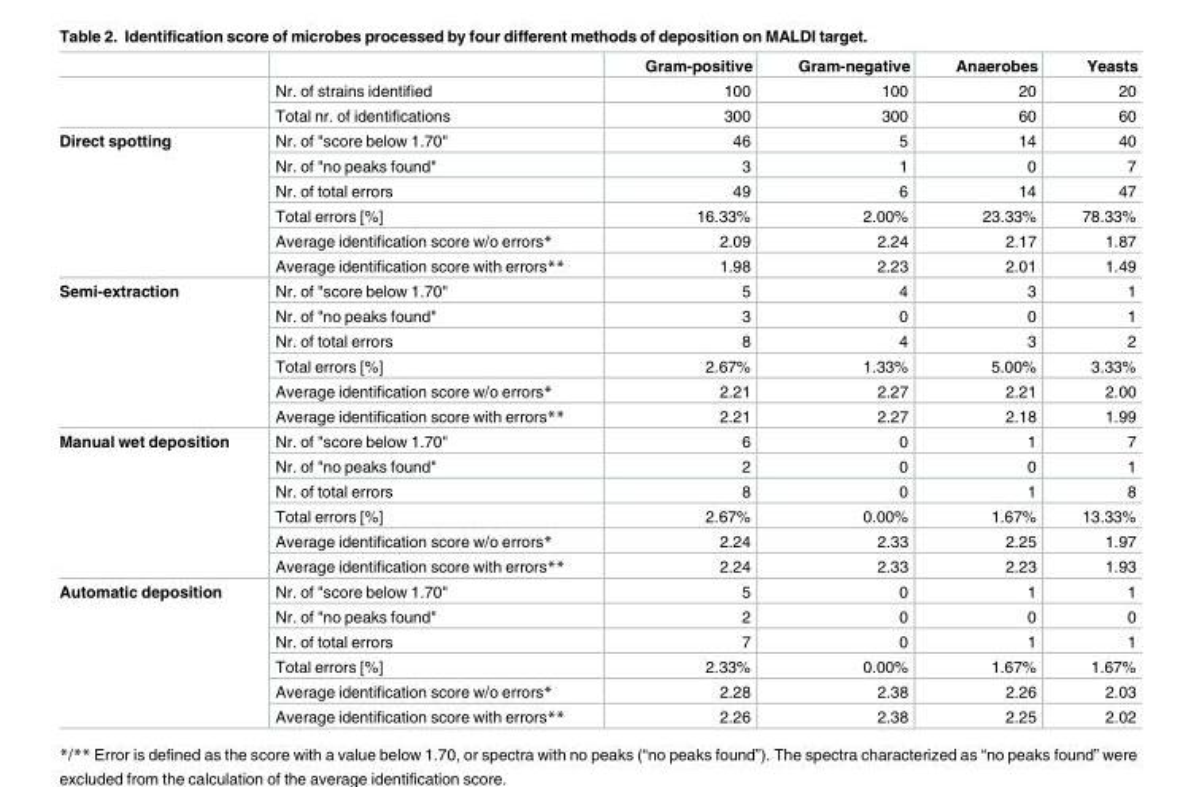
<table><thead><tr><td></td><td></td><td>Gram-positive</td><td>Gram-negative</td><td>Anaerobes</td><td>Yeasts</td></tr></thead><tbody><tr><td rowspan="2"></td><td>Nr. of strains identified</td><td>100</td><td>100</td><td>20</td><td>20</td></tr><tr><td>Total nr. of identifications</td><td>300</td><td>300</td><td>60</td><td>60</td></tr><tr><td rowspan="6">Direct spotting</td><td>Nr. of &quot;score below 1.70&quot;</td><td>46</td><td>5</td><td>14</td><td>40</td></tr><tr><td>Nr. of &quot;no peaks found&quot;</td><td>3</td><td>1</td><td>0</td><td>7</td></tr><tr><td>Nr. of total errors</td><td>49</td><td>6</td><td>14</td><td>47</td></tr><tr><td>Total errors [%]</td><td>16.33%</td><td>2.00%</td><td>23.33%</td><td>78.33%</td></tr><tr><td>Average identification score w/o errors*</td><td>2.09</td><td>2.24</td><td>2.17</td><td>1.87</td></tr><tr><td>Average identification score with errors**</td><td>1.98</td><td>2.23</td><td>2.01</td><td>1.49</td></tr><tr><td rowspan="6">Semi-extraction</td><td>Nr. of &quot;score below 1.70&quot;</td><td>5</td><td>4</td><td>3</td><td>1</td></tr><tr><td>Nr. of &quot;no peaks found&quot;</td><td>3</td><td>0</td><td>0</td><td>1</td></tr><tr><td>Nr. of total errors</td><td>8</td><td>4</td><td>3</td><td>2</td></tr><tr><td>Total errors [%]</td><td>2.67%</td><td>1.33%</td><td>5.00%</td><td>3.33%</td></tr><tr><td>Average identification score w/o errors*</td><td>2.21</td><td>2.27</td><td>2.21</td><td>2.00</td></tr><tr><td>Average identification score with errors**</td><td>2.21</td><td>2.27</td><td>2.18</td><td>1.99</td></tr><tr><td rowspan="6">Manual wet deposition</td><td>Nr. of &quot;score below 1.70&quot;</td><td>6</td><td>0</td><td>1</td><td>7</td></tr><tr><td>Nr. of &quot;no peaks found&quot;</td><td>2</td><td>0</td><td>0</td><td>1</td></tr><tr><td>Nr. of total errors</td><td>8</td><td>0</td><td>1</td><td>8</td></tr><tr><td>Total errors [%]</td><td>2.67%</td><td>0.00%</td><td>1.67%</td><td>13.33%</td></tr><tr><td>Average identification score w/o errors*</td><td>2.24</td><td>2.33</td><td>2.25</td><td>1.97</td></tr><tr><td>Average identification score with errors**</td><td>2.24</td><td>2.33</td><td>2.23</td><td>1.93</td></tr><tr><td rowspan="6">Automatic deposition</td><td>Nr. of &quot;score below 1.70&quot;</td><td>5</td><td>0</td><td>1</td><td>1</td></tr><tr><td>Nr. of &quot;no peaks found&quot;</td><td>2</td><td>0</td><td>0</td><td>0</td></tr><tr><td>Nr. of total errors</td><td>7</td><td>0</td><td>1</td><td>1</td></tr><tr><td>Total errors [%]</td><td>2.33%</td><td>0.00%</td><td>1.67%</td><td>1.67%</td></tr><tr><td>Average identification score w/o errors*</td><td>2.28</td><td>2.38</td><td>2.26</td><td>2.03</td></tr><tr><td>Average identification score with errors**</td><td>2.26</td><td>2.38</td><td>2.25</td><td>2.02</td></tr></tbody></table>